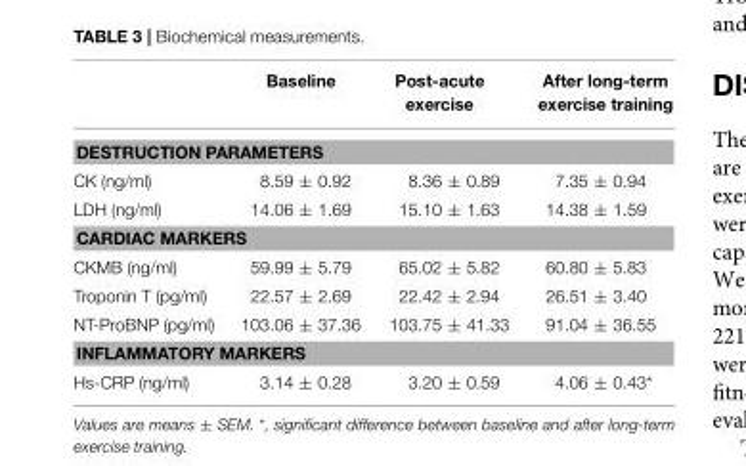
<table><thead><tr><td></td><td>Baseline</td><td>Post-acute exercise</td><td>After long-term exercise training</td></tr></thead><tbody><tr><td colspan="4">DESTRUCTION PARAMETERS</td></tr><tr><td>CK (ng/ml)</td><td>8.59 ± 0.92</td><td>8.36 ± 0.89</td><td>7.35 ± 0.94</td></tr><tr><td>LDH (ng/ml)</td><td>14.06 ± 1.69</td><td>15.10 ± 1.63</td><td>14.38 ± 1.59</td></tr><tr><td colspan="4">CARDIAC MARKERS</td></tr><tr><td>CKMB (ng/ml)</td><td>59.99 ± 5.79</td><td>65.02 ± 5.82</td><td>60.80 ± 5.83</td></tr><tr><td>Troponin T (pg/ml)</td><td>22.57 ± 2.69</td><td>22.42 ± 2.94</td><td>26.51 ± 3.40</td></tr><tr><td>NT-ProBNP (pg/ml)</td><td>103.06 ± 37.36</td><td>103.75 ± 41.33</td><td>91.04 ± 36.55</td></tr><tr><td colspan="4">INFLAMMATORY MARKERS</td></tr><tr><td>Hs-CRP (ng/ml)</td><td>3.14 ± 0.28</td><td>3.20 ± 0.59</td><td>4.06 ± 0.43*</td></tr></tbody></table>